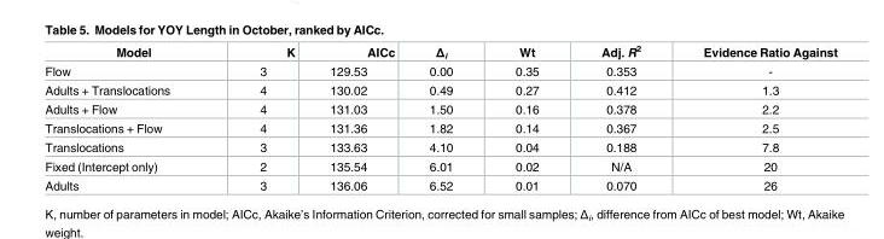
<table><thead><tr><td>Model</td><td>K</td><td>AICc</td><td>Δ<sub>i</sub></td><td>Wt</td><td>Adj. R<sup>2</sup></td><td>Evidence Ratio Against</td></tr></thead><tbody><tr><td>Flow</td><td>3</td><td>129.53</td><td>0.00</td><td>0.35</td><td>0.353</td><td>-</td></tr><tr><td>Adults + Translocations</td><td>4</td><td>130.02</td><td>0.49</td><td>0.27</td><td>0.412</td><td>1.3</td></tr><tr><td>Adults + Flow</td><td>4</td><td>131.03</td><td>1.50</td><td>0.16</td><td>0.378</td><td>2.2</td></tr><tr><td>Translocations + Flow</td><td>4</td><td>131.36</td><td>1.82</td><td>0.14</td><td>0.367</td><td>2.5</td></tr><tr><td>Translocations</td><td>3</td><td>133.63</td><td>4.10</td><td>0.04</td><td>0.188</td><td>7.8</td></tr><tr><td>Fixed (Intercept only)</td><td>2</td><td>135.54</td><td>6.01</td><td>0.02</td><td>N/A</td><td>20</td></tr><tr><td>Adults</td><td>3</td><td>136.06</td><td>6.52</td><td>0.01</td><td>0.070</td><td>26</td></tr></tbody></table>